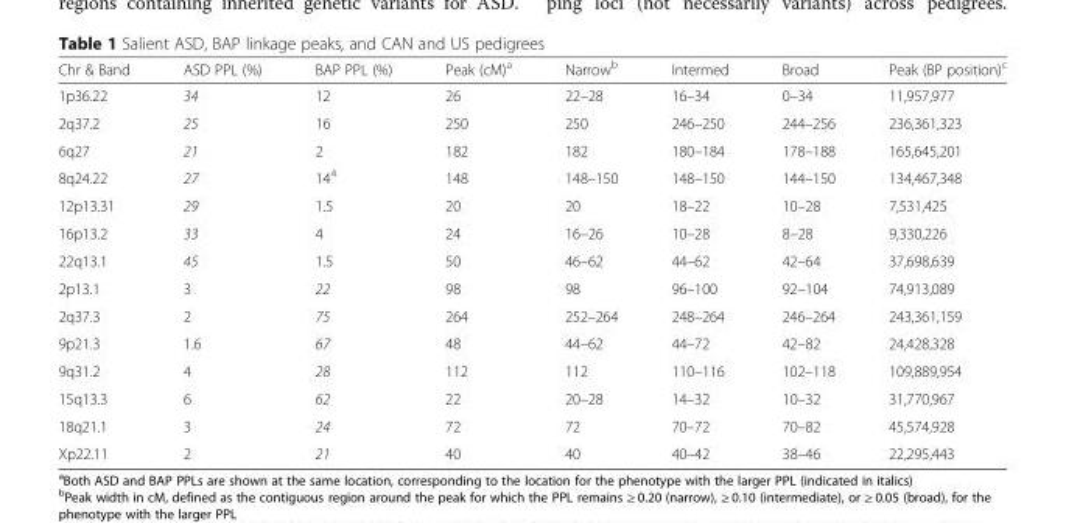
<table><thead><tr><td>Chr &amp; Band</td><td>ASD PPL (%)</td><td>BAP PPL (%)</td><td>Peak (cM)<sup>a</sup></td><td>Narrow<sup>b</sup></td><td>Intermed</td><td>Broad</td><td>Peak (BP position)<sup>c</sup></td></tr></thead><tbody><tr><td>1p36.22</td><td>34</td><td>12</td><td>26</td><td>22–28</td><td>16–34</td><td>0–34</td><td>11,957,977</td></tr><tr><td>2q37.2</td><td>25</td><td>16</td><td>250</td><td>250</td><td>246–250</td><td>244–256</td><td>236,361,323</td></tr><tr><td>6q27</td><td>21</td><td>2</td><td>182</td><td>182</td><td>180–184</td><td>178–188</td><td>165,645,201</td></tr><tr><td>8q24.22</td><td>27</td><td>14<sup>4</sup></td><td>148</td><td>148–150</td><td>148–150</td><td>144–150</td><td>134,467,348</td></tr><tr><td>12p13.31</td><td>29</td><td>1.5</td><td>20</td><td>20</td><td>18–22</td><td>10–28</td><td>7,531,425</td></tr><tr><td>16p13.2</td><td>33</td><td>4</td><td>24</td><td>16–26</td><td>10–28</td><td>8–28</td><td>9,330,226</td></tr><tr><td>22q13.1</td><td>45</td><td>1.5</td><td>50</td><td>46–62</td><td>44–62</td><td>42–64</td><td>37,698,639</td></tr><tr><td>2p13.1</td><td>3</td><td>22</td><td>98</td><td>98</td><td>96–100</td><td>92–104</td><td>74,913,089</td></tr><tr><td>2q37.3</td><td>2</td><td>75</td><td>264</td><td>252–264</td><td>248–264</td><td>246–264</td><td>243,361,159</td></tr><tr><td>9p21.3</td><td>1.6</td><td>67</td><td>48</td><td>44–62</td><td>44–72</td><td>42–82</td><td>24,428,328</td></tr><tr><td>9q31.2</td><td>4</td><td>28</td><td>112</td><td>112</td><td>110–116</td><td>102–118</td><td>109,889,954</td></tr><tr><td>15q13.3</td><td>6</td><td>62</td><td>22</td><td>20–28</td><td>14–32</td><td>10–32</td><td>31,770,967</td></tr><tr><td>18q21.1</td><td>3</td><td>24</td><td>72</td><td>72</td><td>70–72</td><td>70–82</td><td>45,574,928</td></tr><tr><td>Xp22.11</td><td>2</td><td>21</td><td>40</td><td>40</td><td>40–42</td><td>38–46</td><td>22,295,443</td></tr></tbody></table>